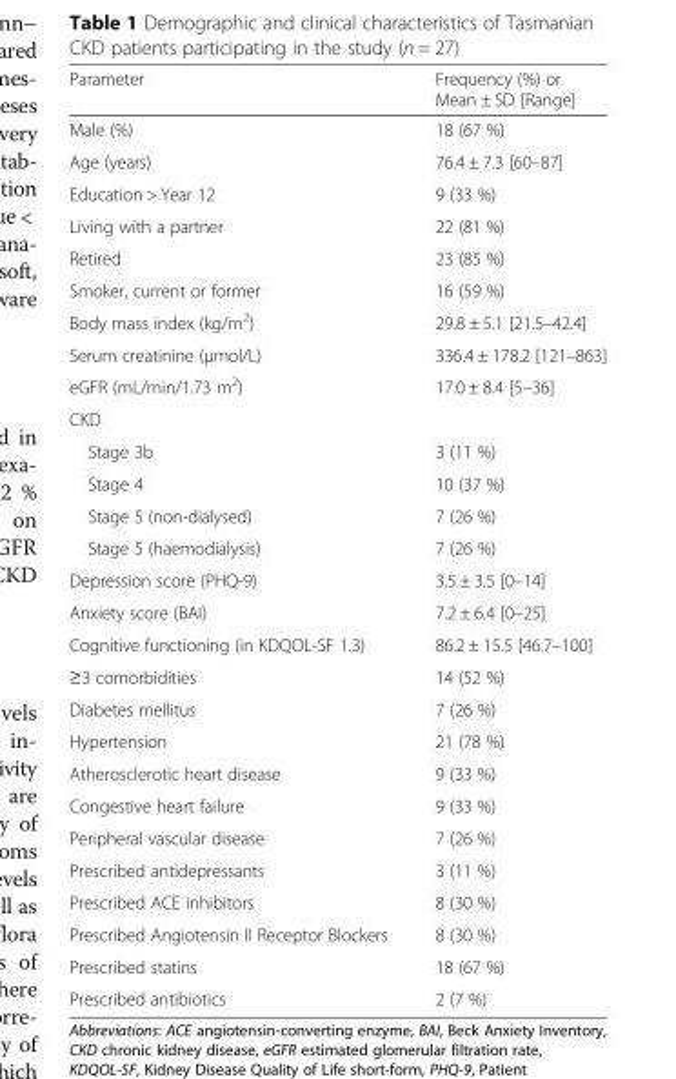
<table><thead><tr><td>Parameter</td><td>Frequency (%) or Mean ± SD [Range]</td></tr></thead><tbody><tr><td>Male (%)</td><td>18 (67 %)</td></tr><tr><td>Age (years)</td><td>76.4 ± 7.3 [60–87]</td></tr><tr><td>Education &gt; Year 12</td><td>9 (33 %)</td></tr><tr><td>Living with a partner</td><td>22 (81 %)</td></tr><tr><td>Retired</td><td>23 (85 %)</td></tr><tr><td>Smoker, current or former</td><td>16 (59 %)</td></tr><tr><td>Body mass index (kg/m<sup>2</sup>)</td><td>29.8 ± 5.1 [21.5–42.4]</td></tr><tr><td>Serum creatinine (μmol/L)</td><td>336.4 ± 178.2 [121–863]</td></tr><tr><td>eGFR (mL/min/1.73 m<sup>2</sup>)</td><td>17.0 ± 8.4 [5–36]</td></tr><tr><td colspan="2">CKD</td></tr><tr><td>Stage 3b</td><td>3 (11 %)</td></tr><tr><td>Stage 4</td><td>10 (37 %)</td></tr><tr><td>Stage 5 (non-dialysed)</td><td>7 (26 %)</td></tr><tr><td>Stage 5 (haemodialysis)</td><td>7 (26 %)</td></tr><tr><td>Depression score (PHQ-9)</td><td>3.5 ± 3.5 [0–14]</td></tr><tr><td>Anxiety score (BAI)</td><td>7.2 ± 6.4 [0–25]</td></tr><tr><td>Cognitive functioning (in KDQOL-SF 1.3)</td><td>86.2 ± 15.5 [46.7–100]</td></tr><tr><td>≥3 comorbidities</td><td>14 (52 %)</td></tr><tr><td>Diabetes mellitus</td><td>7 (26 %)</td></tr><tr><td>Hypertension</td><td>21 (78 %)</td></tr><tr><td>Atherosclerotic heart disease</td><td>9 (33 %)</td></tr><tr><td>Congestive heart failure</td><td>9 (33 %)</td></tr><tr><td>Peripheral vascular disease</td><td>7 (26 %)</td></tr><tr><td>Prescribed antidepressants</td><td>3 (11 %)</td></tr><tr><td>Prescribed ACE inhibitors</td><td>8 (30 %)</td></tr><tr><td>Prescribed Angiotensin II Receptor Blockers</td><td>8 (30 %)</td></tr><tr><td>Prescribed statins</td><td>18 (67 %)</td></tr><tr><td>Prescribed antibiotics</td><td>2 (7 %)</td></tr></tbody></table>